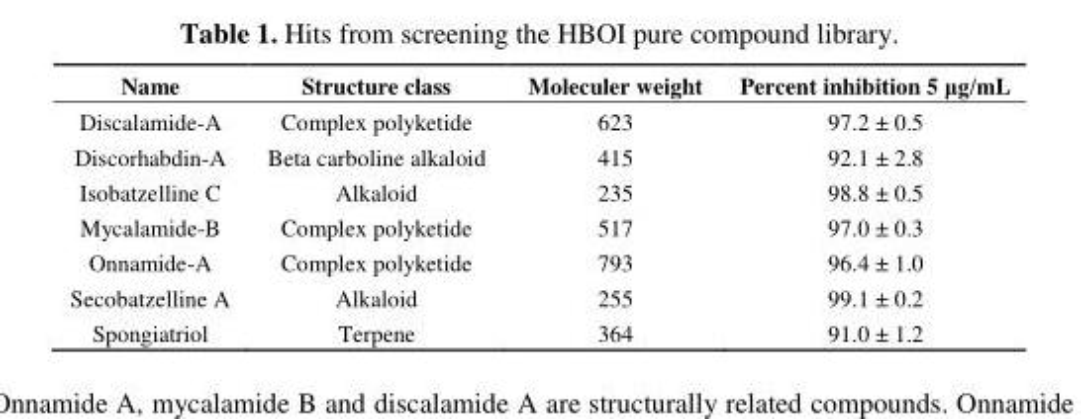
<table><thead><tr><td>Name</td><td>Structure class</td><td>Moleculer weight</td><td>Percent inhibition 5 μg/mL</td></tr></thead><tbody><tr><td>Discalamide-A</td><td>Complex polyketide</td><td>623</td><td>97.2 ± 0.5</td></tr><tr><td>Discorhabdin-A</td><td>Beta carboline alkaloid</td><td>415</td><td>92.1 ± 2.8</td></tr><tr><td>Isobatzelline C</td><td>Alkaloid</td><td>235</td><td>98.8 ± 0.5</td></tr><tr><td>Mycalamide-B</td><td>Complex polyketide</td><td>517</td><td>97.0 ± 0.3</td></tr><tr><td>Onnamide-A</td><td>Complex polyketide</td><td>793</td><td>96.4 ± 1.0</td></tr><tr><td>Secobatzelline A</td><td>Alkaloid</td><td>255</td><td>99.1 ± 0.2</td></tr><tr><td>Spongiatriol</td><td>Terpene</td><td>364</td><td>91.0 ± 1.2</td></tr></tbody></table>